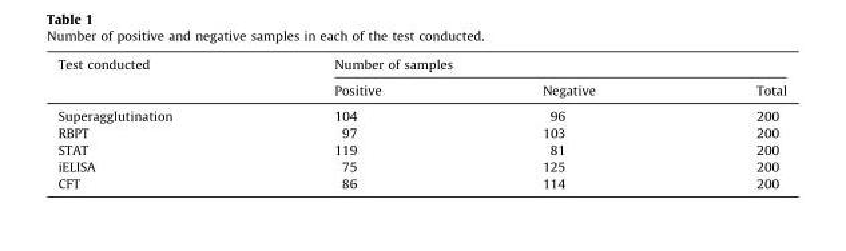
<table><thead><tr><td rowspan="2">Test conducted</td><td colspan="3">Number of samples</td></tr><tr><td>Positive</td><td>Negative</td><td>Total</td></tr></thead><tbody><tr><td>Superagglutination</td><td>104</td><td>96</td><td>200</td></tr><tr><td>RBPT</td><td>97</td><td>103</td><td>200</td></tr><tr><td>STAT</td><td>119</td><td>81</td><td>200</td></tr><tr><td>iELISA</td><td>75</td><td>125</td><td>200</td></tr><tr><td>CFT</td><td>86</td><td>114</td><td>200</td></tr></tbody></table>